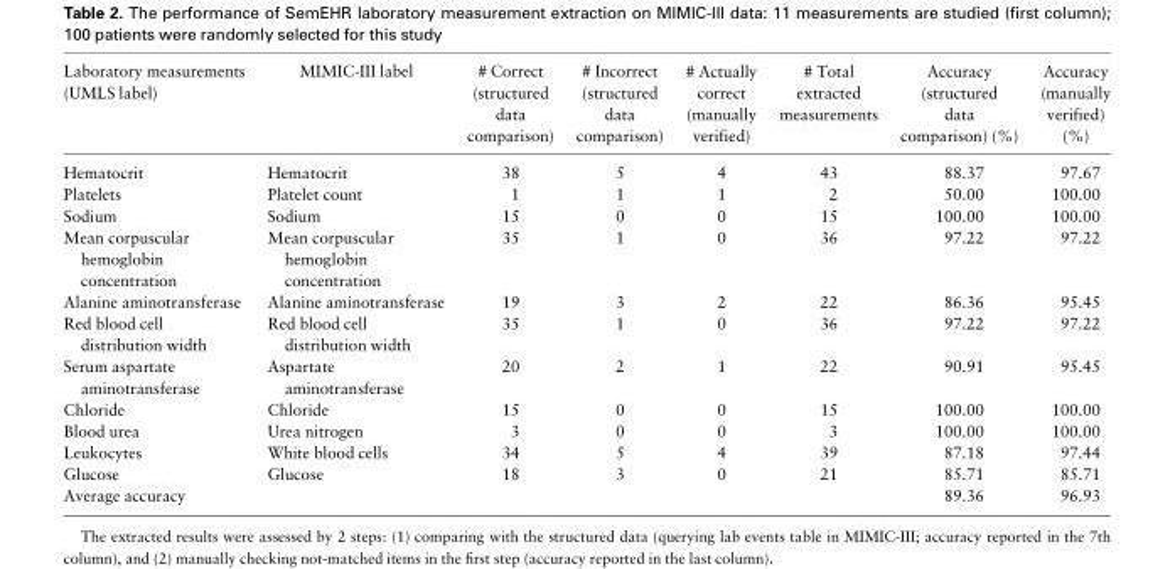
<table><thead><tr><td>Laboratory measurements (UMLS label)</td><td>MIMIC-III label</td><td># Correct (structured data comparison)</td><td># Incorrect (structured data comparison)</td><td># Actually correct (manually verified)</td><td># Total extracted measurements</td><td>Accuracy (structured data comparison) (%)</td><td>Accuracy (manually verified) (%)</td></tr></thead><tbody><tr><td>Hematocrit</td><td>Hematocrit</td><td>38</td><td>5</td><td>4</td><td>43</td><td>88.37</td><td>97.67</td></tr><tr><td>Platelets</td><td>Platelet count</td><td>1</td><td>1</td><td>1</td><td>2</td><td>50.00</td><td>100.00</td></tr><tr><td>Sodium</td><td>Sodium</td><td>15</td><td>0</td><td>0</td><td>15</td><td>100.00</td><td>100.00</td></tr><tr><td>Mean corpuscular hemoglobin concentration</td><td>Mean corpuscular hemoglobin concentration</td><td>35</td><td>1</td><td>0</td><td>36</td><td>97.22</td><td>97.22</td></tr><tr><td>Alanine aminotransferase</td><td>Alanine aminotransferase</td><td>19</td><td>3</td><td>2</td><td>22</td><td>86.36</td><td>95.45</td></tr><tr><td>Red blood cell distribution width</td><td>Red blood cell distribution width</td><td>35</td><td>1</td><td>0</td><td>36</td><td>97.22</td><td>97.22</td></tr><tr><td>Serum aspartate aminotransferase</td><td>Aspartate aminotransferase</td><td>20</td><td>2</td><td>1</td><td>22</td><td>90.91</td><td>95.45</td></tr><tr><td>Chloride</td><td>Chloride</td><td>15</td><td>0</td><td>0</td><td>15</td><td>100.00</td><td>100.00</td></tr><tr><td>Blood urea</td><td>Urea nitrogen</td><td>3</td><td>0</td><td>0</td><td>3</td><td>100.00</td><td>100.00</td></tr><tr><td>Leukocytes</td><td>White blood cells</td><td>34</td><td>5</td><td>4</td><td>39</td><td>87.18</td><td>97.44</td></tr><tr><td>Glucose</td><td>Glucose</td><td>18</td><td>3</td><td>0</td><td>21</td><td>85.71</td><td>85.71</td></tr><tr><td colspan="6">Average accuracy</td><td>89.36</td><td>96.93</td></tr></tbody></table>